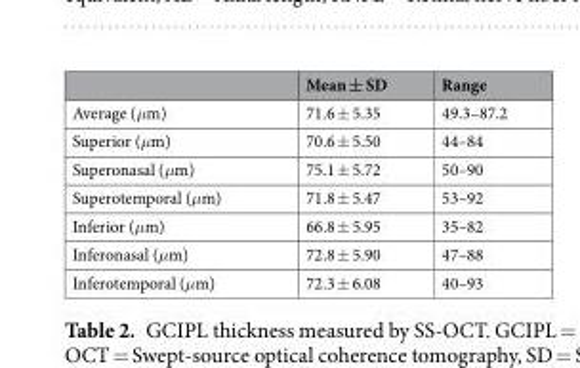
<table><thead><tr><td></td><td>Mean ± SD</td><td>Range</td></tr></thead><tbody><tr><td>Average (μm)</td><td>71.6 ± 5.35</td><td>49.3–87.2</td></tr><tr><td>Superior (μm)</td><td>70.6 ± 5.50</td><td>44–84</td></tr><tr><td>Superonasal (μm)</td><td>75.1 ± 5.72</td><td>50–90</td></tr><tr><td>Superotemporal (μm)</td><td>71.8 ± 5.47</td><td>53–92</td></tr><tr><td>Inferior (μm)</td><td>66.8 ± 5.95</td><td>35–82</td></tr><tr><td>Inferonasal (μm)</td><td>72.8 ± 5.90</td><td>47–88</td></tr><tr><td>Inferotemporal (μm)</td><td>72.3 ± 6.08</td><td>40–93</td></tr></tbody></table>